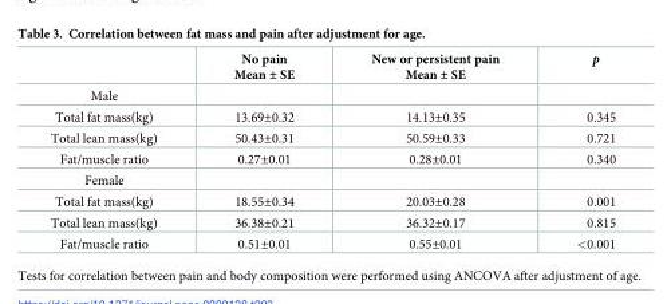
<table><thead><tr><td></td><td>No pain Mean ± SE</td><td>New or persistent pain Mean ± SE</td><td>p</td></tr></thead><tbody><tr><td colspan="4">Male</td></tr><tr><td>Total fat mass(kg)</td><td>13.69±0.32</td><td>14.13±0.35</td><td>0.345</td></tr><tr><td>Total lean mass(kg)</td><td>50.43±0.31</td><td>50.59±0.33</td><td>0.721</td></tr><tr><td>Fat/muscle ratio</td><td>0.27±0.01</td><td>0.28±0.01</td><td>0.340</td></tr><tr><td colspan="4">Female</td></tr><tr><td>Total fat mass(kg)</td><td>18.55±0.34</td><td>20.03±0.28</td><td>0.001</td></tr><tr><td>Total lean mass(kg)</td><td>36.38±0.21</td><td>36.32±0.17</td><td>0.815</td></tr><tr><td>Fat/muscle ratio</td><td>0.51±0.01</td><td>0.55±0.01</td><td>&lt;0.001</td></tr></tbody></table>